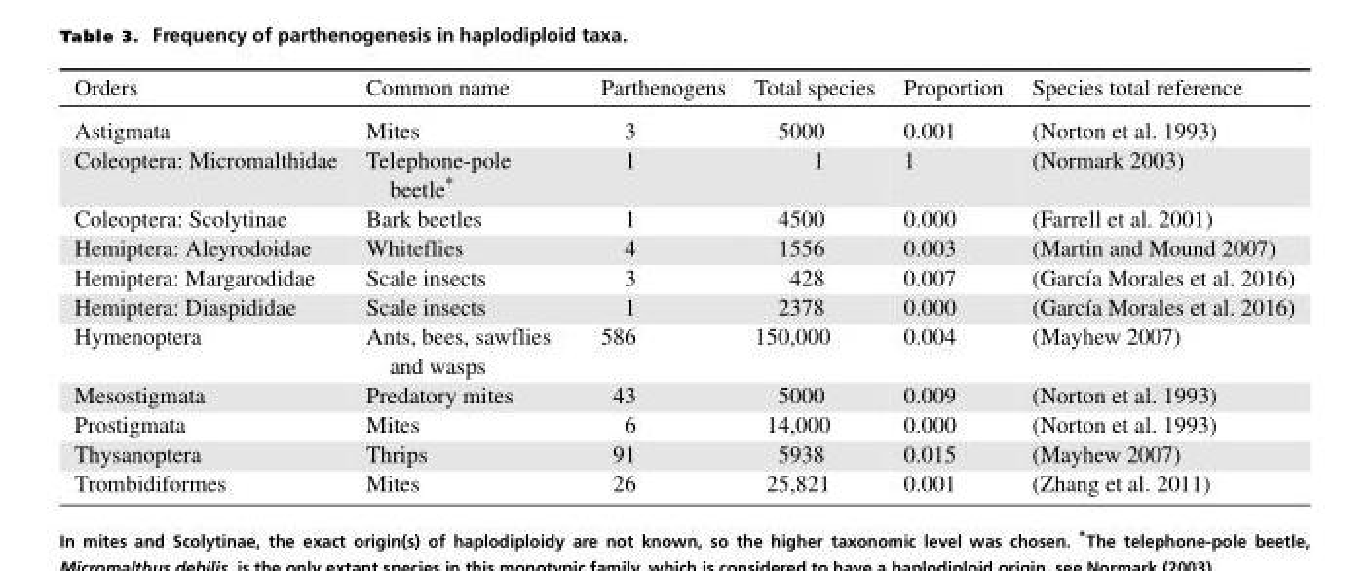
<table><thead><tr><td>Orders</td><td>Common name</td><td>Parthenogens</td><td>Total species</td><td>Proportion</td><td>Species total reference</td></tr></thead><tbody><tr><td>Astigmata</td><td>Mites</td><td>3</td><td>5000</td><td>0.001</td><td>(Norton et al. 1993)</td></tr><tr><td>Coleoptera: Micromalthidae</td><td>Telephone-pole beetle∗</td><td>1</td><td>1</td><td>1</td><td>(Normark 2003)</td></tr><tr><td>Coleoptera: Scolytinae</td><td>Bark beetles</td><td>1</td><td>4500</td><td>0.000</td><td>(Farrell et al. 2001)</td></tr><tr><td>Hemiptera: Aleyrodoidae</td><td>Whiteflies</td><td>4</td><td>1556</td><td>0.003</td><td>(Martin and Mound 2007)</td></tr><tr><td>Hemiptera: Margarodidae</td><td>Scale insects</td><td>3</td><td>428</td><td>0.007</td><td>(Garc´ıa Morales et al. 2016)</td></tr><tr><td>Hemiptera: Diaspididae</td><td>Scale insects</td><td>1</td><td>2378</td><td>0.000</td><td>(Garc´ıa Morales et al. 2016)</td></tr><tr><td>Hymenoptera</td><td>Ants, bees, sawflies and wasps</td><td>586</td><td>150,000</td><td>0.004</td><td>(Mayhew 2007)</td></tr><tr><td>Mesostigmata</td><td>Predatory mites</td><td>43</td><td>5000</td><td>0.009</td><td>(Norton et al. 1993)</td></tr><tr><td>Prostigmata</td><td>Mites</td><td>6</td><td>14,000</td><td>0.000</td><td>(Norton et al. 1993)</td></tr><tr><td>Thysanoptera</td><td>Thrips</td><td>91</td><td>5938</td><td>0.015</td><td>(Mayhew 2007)</td></tr><tr><td>Trombidiformes</td><td>Mites</td><td>26</td><td>25,821</td><td>0.001</td><td>(Zhang et al. 2011)</td></tr></tbody></table>